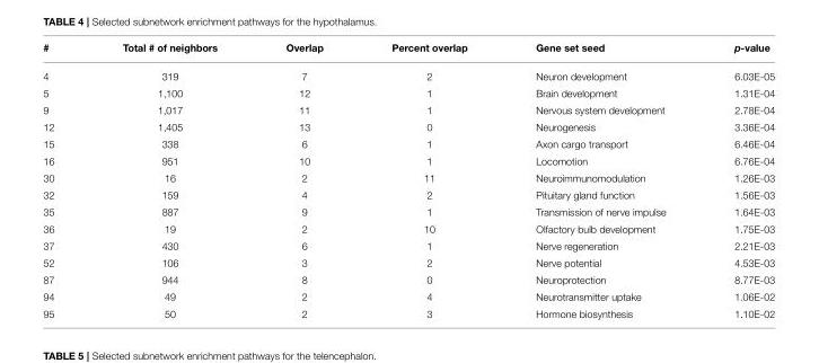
<table><thead><tr><td>#</td><td>Total # of neighbors</td><td>Overlap</td><td>Percent overlap</td><td>Gene set seed</td><td>p-value</td></tr></thead><tbody><tr><td>4</td><td>319</td><td>7</td><td>2</td><td>Neuron development</td><td>6.03E-05</td></tr><tr><td>5</td><td>1,100</td><td>12</td><td>1</td><td>Brain development</td><td>1.31E-04</td></tr><tr><td>9</td><td>1,017</td><td>11</td><td>1</td><td>Nervous system development</td><td>2.78E-04</td></tr><tr><td>12</td><td>1,405</td><td>13</td><td>0</td><td>Neurogenesis</td><td>3.36E-04</td></tr><tr><td>15</td><td>338</td><td>6</td><td>1</td><td>Axon cargo transport</td><td>6.46E-04</td></tr><tr><td>16</td><td>951</td><td>10</td><td>1</td><td>Locomotion</td><td>6.76E-04</td></tr><tr><td>30</td><td>16</td><td>2</td><td>11</td><td>Neuroimmunomodulation</td><td>1.26E-03</td></tr><tr><td>32</td><td>159</td><td>4</td><td>2</td><td>Pituitary gland function</td><td>1.56E-03</td></tr><tr><td>35</td><td>887</td><td>9</td><td>1</td><td>Transmission of nerve impulse</td><td>1.64E-03</td></tr><tr><td>36</td><td>19</td><td>2</td><td>10</td><td>Olfactory bulb development</td><td>1.75E-03</td></tr><tr><td>37</td><td>430</td><td>6</td><td>1</td><td>Nerve regeneration</td><td>2.21E-03</td></tr><tr><td>52</td><td>106</td><td>3</td><td>2</td><td>Nerve potential</td><td>4.53E-03</td></tr><tr><td>87</td><td>944</td><td>8</td><td>0</td><td>Neuroprotection</td><td>8.77E-03</td></tr><tr><td>94</td><td>49</td><td>2</td><td>4</td><td>Neurotransmitter uptake</td><td>1.06E-02</td></tr><tr><td>95</td><td>50</td><td>2</td><td>3</td><td>Hormone biosynthesis</td><td>1.10E-02</td></tr></tbody></table>